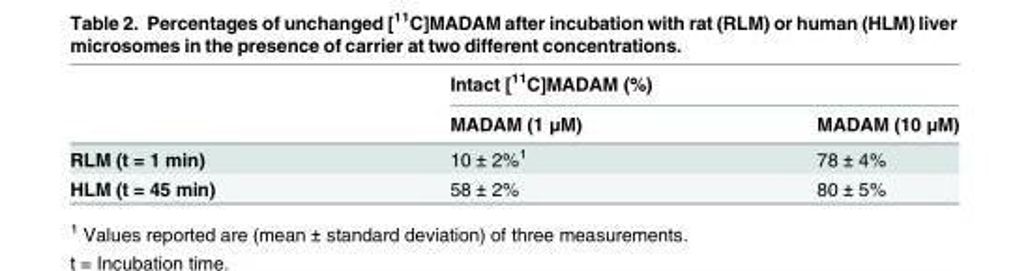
<table><thead><tr><td rowspan="2"></td><td colspan="2">Intact [<sup>11</sup>C]MADAM (%)</td></tr><tr><td>MADAM (1 μM)</td><td>MADAM (10 μM)</td></tr></thead><tbody><tr><td>RLM (t = 1 min)</td><td>10 ± 2%<sup>1</sup></td><td>78 ± 4%</td></tr><tr><td>HLM (t = 45 min)</td><td>58 ± 2%</td><td>80 ± 5%</td></tr></tbody></table>